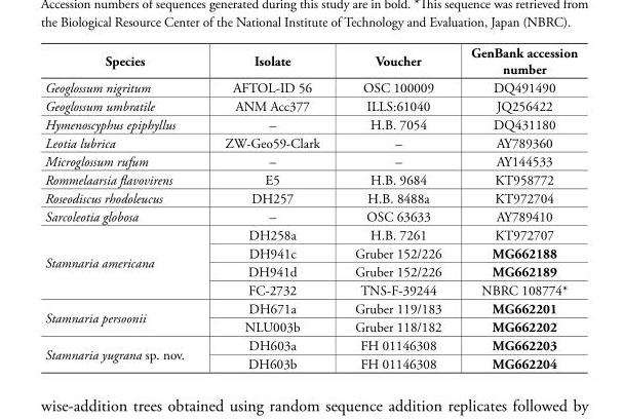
<table><thead><tr><td>Species</td><td>Isolate</td><td>Voucher</td><td>GenBank accession number</td></tr></thead><tbody><tr><td>Geoglossum nigritum</td><td>AFTOL-ID 56</td><td>OSC 100009</td><td>DQ491490</td></tr><tr><td>Geoglossum umbratile</td><td>ANM Acc377</td><td>ILLS:61040</td><td>JQ256422</td></tr><tr><td>Hymenoscyphus epiphyllus</td><td>–</td><td>H.B. 7054</td><td>DQ431180</td></tr><tr><td>Leotia lubrica</td><td>ZW-Geo59-Clark</td><td>–</td><td>AY789360</td></tr><tr><td>Microglossum rufum</td><td>–</td><td>–</td><td>AY144533</td></tr><tr><td>Rommelaarsia flavovirens</td><td>E5</td><td>H.B. 9684</td><td>KT958772</td></tr><tr><td>Roseodiscus rhodoleucus</td><td>DH257</td><td>H.B. 8488a</td><td>KT972704</td></tr><tr><td>Sarcoleotia globosa</td><td>–</td><td>OSC 63633</td><td>AY789410</td></tr><tr><td rowspan="4">Stamnaria americana</td><td>DH258a</td><td>H.B. 7261</td><td>KT972707</td></tr><tr><td>DH941c</td><td>Gruber 152/226</td><td>MG662188</td></tr><tr><td>DH941d</td><td>Gruber 152/226</td><td>MG662189</td></tr><tr><td>FC-2732</td><td>TNS-F-39244</td><td>NBRC 108774*</td></tr><tr><td rowspan="2">Stamnaria persoonii</td><td>DH671a</td><td>Gruber 119/183</td><td>MG662201</td></tr><tr><td>NLU003b</td><td>Gruber 118/182</td><td>MG662202</td></tr><tr><td rowspan="2">Stamnaria yugrana sp. nov.</td><td>DH603a</td><td>FH 01146308</td><td>MG662203</td></tr><tr><td>DH603b</td><td>FH 01146308</td><td>MG662204</td></tr></tbody></table>